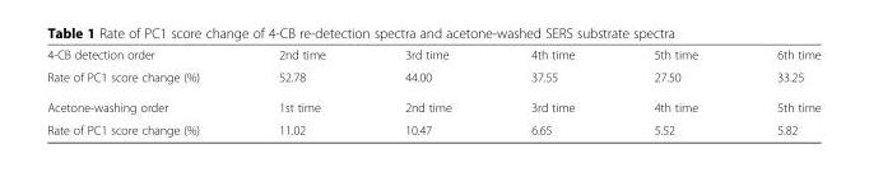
<table><tbody><tr><td>4-CB detection order</td><td>2nd time</td><td>3rd time</td><td>4th time</td><td>5th time</td><td>6th time</td></tr><tr><td>Rate of PC1 score change (%)</td><td>52.78</td><td>44.00</td><td>37.55</td><td>27.50</td><td>33.25</td></tr><tr><td>Acetone-washing order</td><td>1st time</td><td>2nd time</td><td>3rd time</td><td>4th time</td><td>5th time</td></tr><tr><td>Rate of PC1 score change (%)</td><td>11.02</td><td>10.47</td><td>6.65</td><td>5.52</td><td>5.82</td></tr></tbody></table>